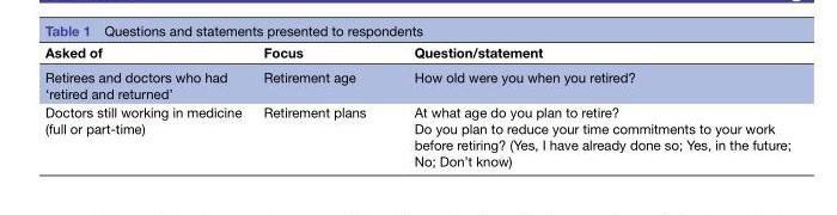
<table><thead><tr><td>Asked of</td><td>Focus</td><td>Question/statement</td></tr></thead><tbody><tr><td>Retirees and doctors who had ‘retired and returned’</td><td>Retirement age</td><td>How old were you when you retired?</td></tr><tr><td>Doctors still working in medicine (full or part-time)</td><td>Retirement plans</td><td>At what age do you plan to retire? Do you plan to reduce your time commitments to your work before retiring? (Yes, I have already done so; Yes, in the future; No; Don’t know)</td></tr></tbody></table>